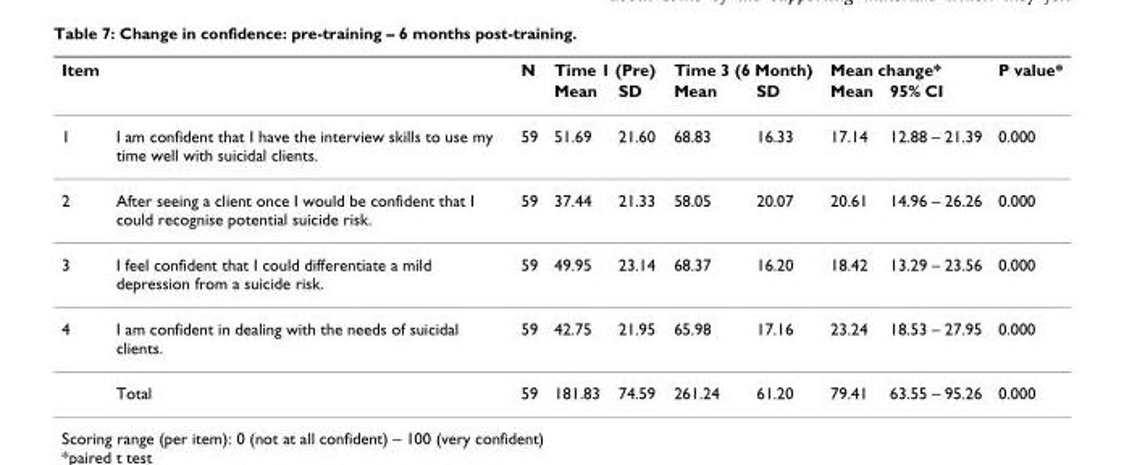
<table><thead><tr><td rowspan="2">Item</td><td rowspan="2"></td><td rowspan="2">N</td><td colspan="2">Time 1 (Pre)</td><td colspan="2">Time 3 (6 Month)</td><td colspan="2">Mean change*</td><td rowspan="2">P value*</td></tr><tr><td>Mean</td><td>SD</td><td>Mean</td><td>SD</td><td>Mean</td><td>95% CI</td></tr></thead><tbody><tr><td>1</td><td>I am confident that I have the interview skills to use my time well with suicidal clients.</td><td>59</td><td>51.69</td><td>21.60</td><td>68.83</td><td>16.33</td><td>17.14</td><td>12.88 – 21.39</td><td>0.000</td></tr><tr><td>2</td><td>After seeing a client once I would be confident that I could recognise potential suicide risk.</td><td>59</td><td>37.44</td><td>21.33</td><td>58.05</td><td>20.07</td><td>20.61</td><td>14.96 – 26.26</td><td>0.000</td></tr><tr><td>3</td><td>I feel confident that I could differentiate a mild depression from a suicide risk.</td><td>59</td><td>49.95</td><td>23.14</td><td>68.37</td><td>16.20</td><td>18.42</td><td>13.29 – 23.56</td><td>0.000</td></tr><tr><td rowspan="2">4</td><td>I am confident in dealing with the needs of suicidal clients.</td><td>59</td><td>42.75</td><td>21.95</td><td>65.98</td><td>17.16</td><td>23.24</td><td>18.53 – 27.95</td><td>0.000</td></tr><tr><td>Total</td><td>59</td><td>181.83</td><td>74.59</td><td>261.24</td><td>61.20</td><td>79.41</td><td>63.55 – 95.26</td><td>0.000</td></tr></tbody></table>